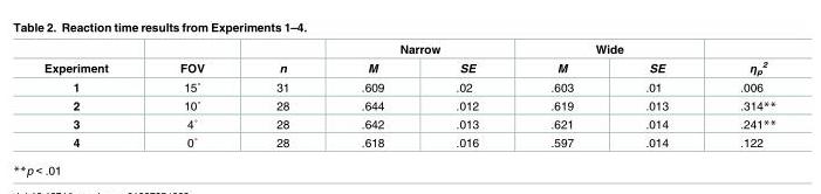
<table><thead><tr><td rowspan="2">Experiment</td><td rowspan="2">FOV</td><td rowspan="2">n</td><td colspan="2">Narrow</td><td colspan="2">Wide</td><td rowspan="2">η<sub>p</sub> <sup>2</sup></td></tr><tr><td>M</td><td>SE</td><td>M</td><td>SE</td></tr></thead><tbody><tr><td>1</td><td>15˚</td><td>31</td><td>.609</td><td>.02</td><td>.603</td><td>.01</td><td>.006</td></tr><tr><td>2</td><td>10˚</td><td>28</td><td>.644</td><td>.012</td><td>.619</td><td>.013</td><td>.314**</td></tr><tr><td>3</td><td>4˚</td><td>28</td><td>.642</td><td>.013</td><td>.621</td><td>.014</td><td>.241**</td></tr><tr><td>4</td><td>0˚</td><td>28</td><td>.618</td><td>.016</td><td>.597</td><td>.014</td><td>.122</td></tr></tbody></table>